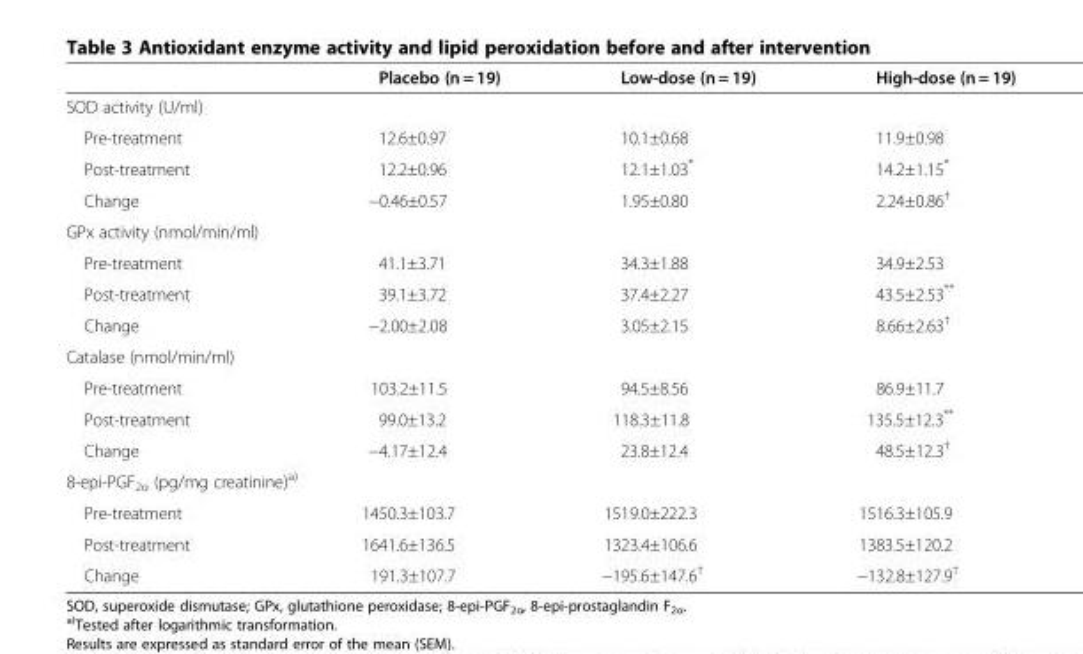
<table><thead><tr><td></td><td>Placebo (n = 19)</td><td>Low-dose (n = 19)</td><td>High-dose (n = 19)</td></tr></thead><tbody><tr><td colspan="4">SOD activity (U/ml)</td></tr><tr><td>Pre-treatment</td><td>12.6±0.97</td><td>10.1±0.68</td><td>11.9±0.98</td></tr><tr><td>Post-treatment</td><td>12.2±0.96</td><td>12.1±1.03*</td><td>14.2±1.15*</td></tr><tr><td>Change</td><td>−0.46±0.57</td><td>1.95±0.80</td><td>2.24±0.86<sup>†</sup></td></tr><tr><td colspan="4">GPx activity (nmol/min/ml)</td></tr><tr><td>Pre-treatment</td><td>41.1±3.71</td><td>34.3±1.88</td><td>34.9±2.53</td></tr><tr><td>Post-treatment</td><td>39.1±3.72</td><td>37.4±2.27</td><td>43.5±2.53**</td></tr><tr><td>Change</td><td>−2.00±2.08</td><td>3.05±2.15</td><td>8.66±2.63<sup>†</sup></td></tr><tr><td colspan="4">Catalase (nmol/min/ml)</td></tr><tr><td>Pre-treatment</td><td>103.2±11.5</td><td>94.5±8.56</td><td>86.9±11.7</td></tr><tr><td>Post-treatment</td><td>99.0±13.2</td><td>118.3±11.8</td><td>135.5±12.3**</td></tr><tr><td>Change</td><td>−4.17±12.4</td><td>23.8±12.4</td><td>48.5±12.3<sup>†</sup></td></tr><tr><td colspan="4">8-epi-PGF<sub>2α</sub> (pg/mg creatinine)<sup>a)</sup></td></tr><tr><td>Pre-treatment</td><td>1450.3±103.7</td><td>1519.0±222.3</td><td>1516.3±105.9</td></tr><tr><td>Post-treatment</td><td>1641.6±136.5</td><td>1323.4±106.6</td><td>1383.5±120.2</td></tr><tr><td>Change</td><td>191.3±107.7</td><td>−195.6±147.6<sup>†</sup></td><td>−132.8±127.9<sup>†</sup></td></tr></tbody></table>